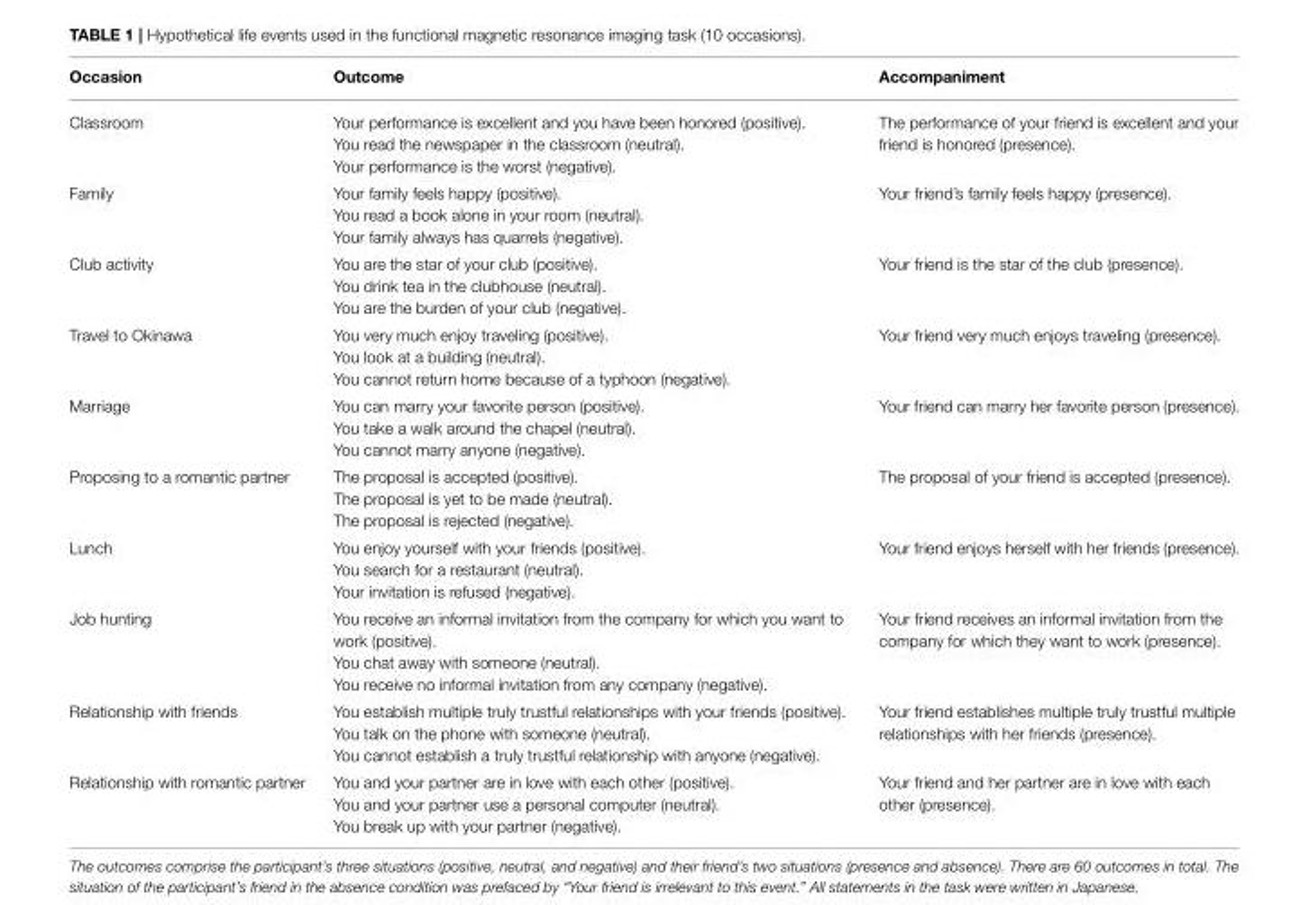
<table><thead><tr><td>Occasion</td><td>Outcome</td><td>Accompaniment</td></tr></thead><tbody><tr><td>Classroom</td><td>Your performance is excellent and you have been honored (positive). You read the newspaper in the classroom (neutral). Your performance is the worst (negative).</td><td>The performance of your friend is excellent and your friend is honored (presence).</td></tr><tr><td>Family</td><td>Your family feels happy (positive). You read a book alone in your room (neutral). Your family always has quarrels (negative).</td><td>Your friend’s family feels happy (presence).</td></tr><tr><td>Club activity</td><td>You are the star of your club (positive). You drink tea in the clubhouse (neutral). You are the burden of your club (negative).</td><td>Your friend is the star of the club (presence).</td></tr><tr><td>Travel to Okinawa</td><td>You very much enjoy traveling (positive). You look at a building (neutral). You cannot return home because of a typhoon (negative).</td><td>Your friend very much enjoys traveling (presence).</td></tr><tr><td>Marriage</td><td>You can marry your favorite person (positive). You take a walk around the chapel (neutral). You cannot marry anyone (negative).</td><td>Your friend can marry her favorite person (presence).</td></tr><tr><td>Proposing to a romantic partner</td><td>The proposal is accepted (positive). The proposal is yet to be made (neutral). The proposal is rejected (negative).</td><td>The proposal of your friend is accepted (presence).</td></tr><tr><td>Lunch</td><td>You enjoy yourself with your friends (positive). You search for a restaurant (neutral). Your invitation is refused (negative).</td><td>Your friend enjoys herself with her friends (presence).</td></tr><tr><td>Job hunting</td><td>You receive an informal invitation from the company for which you want to work (positive). You chat away with someone (neutral). You receive no informal invitation from any company (negative).</td><td>Your friend receives an informal invitation from the company for which they want to work (presence).</td></tr><tr><td>Relationship with friends</td><td>You establish multiple truly trustful relationships with your friends (positive). You talk on the phone with someone (neutral). You cannot establish a truly trustful relationship with anyone (negative).</td><td>Your friend establishes multiple truly trustful multiple relationships with her friends (presence).</td></tr><tr><td>Relationship with romantic partner</td><td>You and your partner are in love with each other (positive). You and your partner use a personal computer (neutral). You break up with your partner (negative).</td><td>Your friend and her partner are in love with each other (presence).</td></tr></tbody></table>